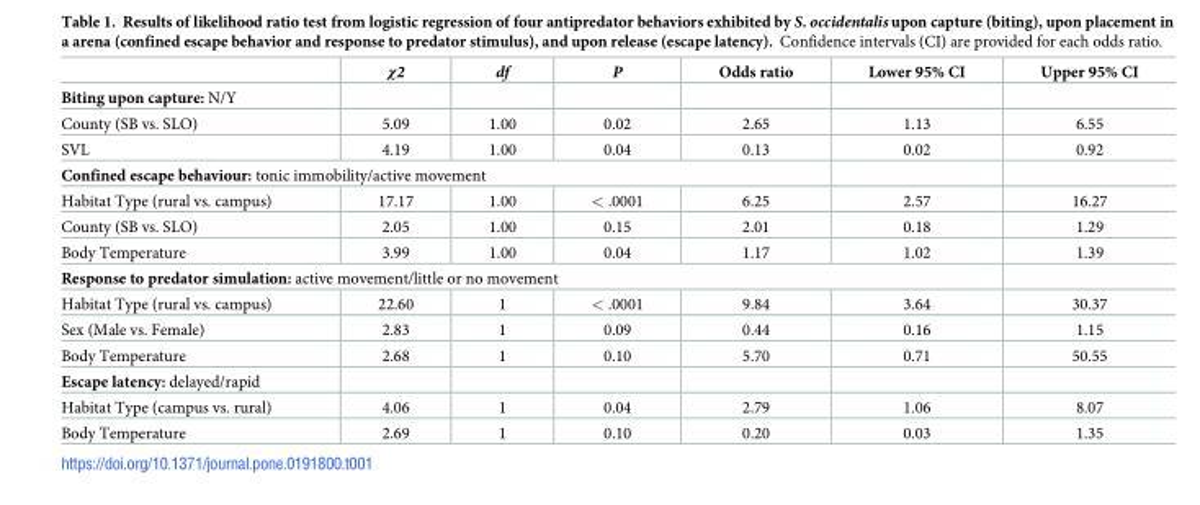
<table><thead><tr><td></td><td>χ2</td><td>df</td><td>P</td><td>Odds ratio</td><td>Lower 95% CI</td><td>Upper 95% CI</td></tr></thead><tbody><tr><td colspan="7">Biting upon capture: N/Y</td></tr><tr><td>County (SB vs. SLO)</td><td>5.09</td><td>1.00</td><td>0.02</td><td>2.65</td><td>1.13</td><td>6.55</td></tr><tr><td>SVL</td><td>4.19</td><td>1.00</td><td>0.04</td><td>0.13</td><td>0.02</td><td>0.92</td></tr><tr><td colspan="7">Confined escape behaviour: tonic immobility/active movement</td></tr><tr><td>Habitat Type (rural vs. campus)</td><td>17.17</td><td>1.00</td><td>&lt; .0001</td><td>6.25</td><td>2.57</td><td>16.27</td></tr><tr><td>County (SB vs. SLO)</td><td>2.05</td><td>1.00</td><td>0.15</td><td>2.01</td><td>0.18</td><td>1.29</td></tr><tr><td>Body Temperature</td><td>3.99</td><td>1.00</td><td>0.04</td><td>1.17</td><td>1.02</td><td>1.39</td></tr><tr><td colspan="7">Response to predator simulation: active movement/little or no movement</td></tr><tr><td>Habitat Type (rural vs. campus)</td><td>22.60</td><td>1</td><td>&lt; .0001</td><td>9.84</td><td>3.64</td><td>30.37</td></tr><tr><td>Sex (Male vs. Female)</td><td>2.83</td><td>1</td><td>0.09</td><td>0.44</td><td>0.16</td><td>1.15</td></tr><tr><td>Body Temperature</td><td>2.68</td><td>1</td><td>0.10</td><td>5.70</td><td>0.71</td><td>50.55</td></tr><tr><td colspan="7">Escape latency: delayed/rapid</td></tr><tr><td>Habitat Type (campus vs. rural)</td><td>4.06</td><td>1</td><td>0.04</td><td>2.79</td><td>1.06</td><td>8.07</td></tr><tr><td>Body Temperature</td><td>2.69</td><td>1</td><td>0.10</td><td>0.20</td><td>0.03</td><td>1.35</td></tr></tbody></table>